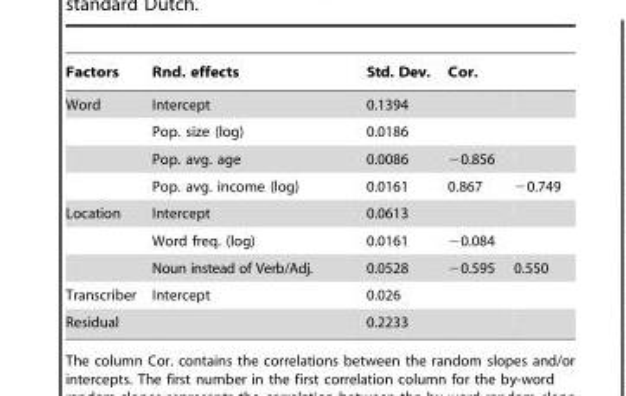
<table><thead><tr><td>Factors</td><td>Rnd. effects</td><td>Std. Dev.</td><td>Cor.</td><td></td></tr></thead><tbody><tr><td rowspan="4">Word</td><td>Intercept</td><td>0.1394</td><td></td><td></td></tr><tr><td>Pop. size (log)</td><td>0.0186</td><td></td><td></td></tr><tr><td>Pop. avg. age</td><td>0.0086</td><td>−0.856</td><td></td></tr><tr><td>Pop. avg. income (log)</td><td>0.0161</td><td>0.867</td><td>−0.749</td></tr><tr><td rowspan="3">Location</td><td>Intercept</td><td>0.0613</td><td></td><td></td></tr><tr><td>Word freq. (log)</td><td>0.0161</td><td>−0.084</td><td></td></tr><tr><td>Noun instead of Verb/Adj.</td><td>0.0528</td><td>−0.595</td><td>0.550</td></tr><tr><td>Transcriber</td><td>Intercept</td><td>0.026</td><td></td><td></td></tr><tr><td>Residual</td><td></td><td>0.2233</td><td></td><td></td></tr></tbody></table>